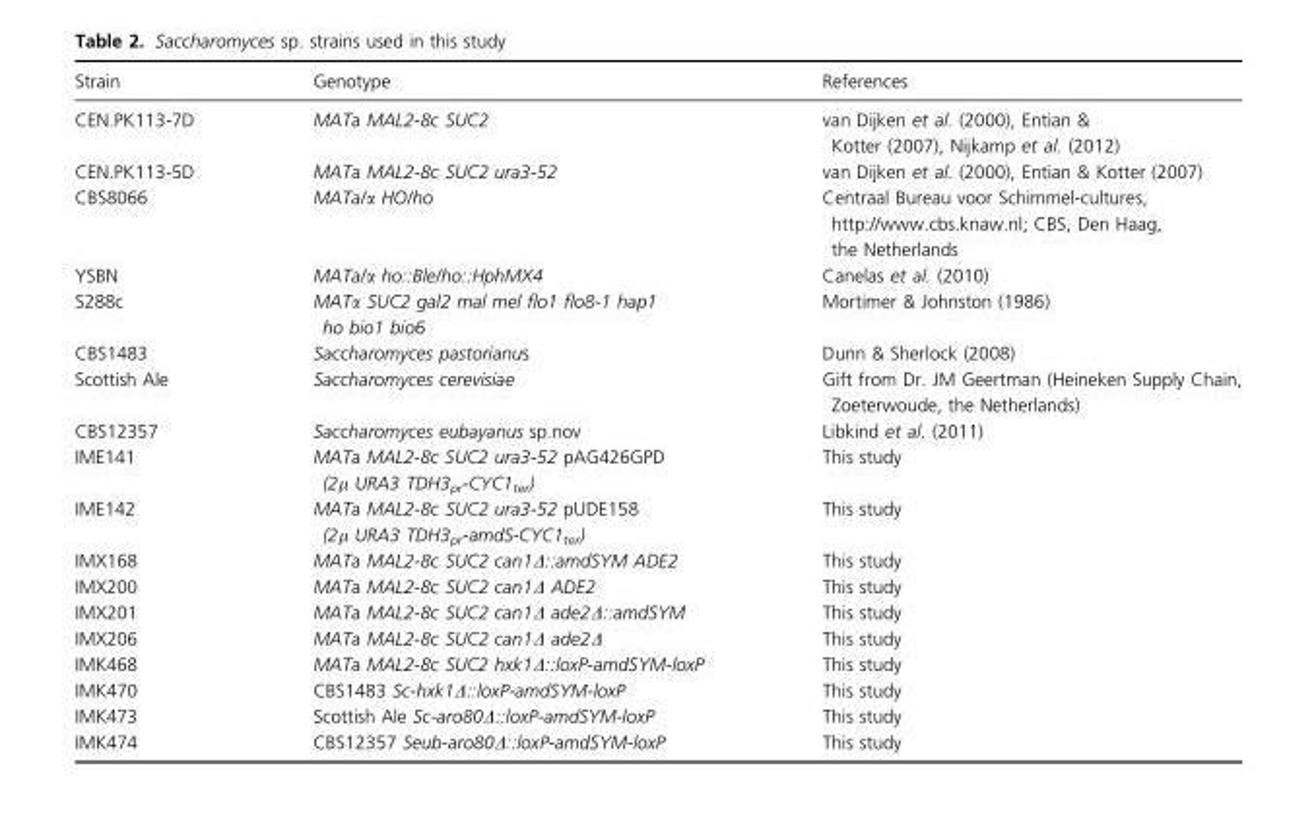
<table><thead><tr><td>Strain</td><td>Genotype</td><td>References</td></tr></thead><tbody><tr><td>CEN.PK113-7D</td><td>MATa MAL2-8c SUC2</td><td>van Dijken et al. (2000), Entian &amp; Kotter (2007), Nijkamp et al. (2012)</td></tr><tr><td>CEN.PK113-5D</td><td>MATa MAL2-8c SUC2 ura3-52</td><td>van Dijken et al. (2000), Entian &amp; Kotter (2007)</td></tr><tr><td>CBS8066</td><td>MATa/α HO/ho</td><td>Centraal Bureau voor Schimmel-cultures, http://www.cbs.knaw.nl; CBS, Den Haag, the Netherlands</td></tr><tr><td>YSBN</td><td>MATa/α ho::Ble/ho::HphMX4</td><td>Canelas et al. (2010)</td></tr><tr><td>S288c</td><td>MATα SUC2 gal2 mal mel flo1 flo8-1 hap1 ho bio1 bio6</td><td>Mortimer &amp; Johnston (1986)</td></tr><tr><td>CBS1483</td><td>Saccharomyces pastorianus</td><td>Dunn &amp; Sherlock (2008)</td></tr><tr><td>Scottish Ale</td><td>Saccharomyces cerevisiae</td><td>Gift from Dr. JM Geertman (Heineken Supply Chain, Zoeterwoude, the Netherlands)</td></tr><tr><td>CBS12357</td><td>Saccharomyces eubayanus sp.nov</td><td>Libkind et al. (2011)</td></tr><tr><td>IME141</td><td>MATa MAL2-8c SUC2 ura3-52 pAG426GPD (2μ URA3 TDH3<sub>pr</sub>-CYC1<sub>ter</sub>)</td><td>This study</td></tr><tr><td>IME142</td><td>MATa MAL2-8c SUC2 ura3-52 pUDE158 (2μ URA3 TDH3<sub>pr</sub>-amdS-CYC1<sub>ter</sub>)</td><td>This study</td></tr><tr><td>IMX168</td><td>MATa MAL2-8c SUC2 can1Δ::amdSYM ADE2</td><td>This study</td></tr><tr><td>IMX200</td><td>MATa MAL2-8c SUC2 can1Δ ADE2</td><td>This study</td></tr><tr><td>IMX201</td><td>MATa MAL2-8c SUC2 can1Δ ade2Δ::amdSYM</td><td>This study</td></tr><tr><td>IMX206</td><td>MATa MAL2-8c SUC2 can1Δ ade2Δ</td><td>This study</td></tr><tr><td>IMK468</td><td>MATa MAL2-8c SUC2 hxk1Δ::loxP-amdSYM-loxP</td><td>This study</td></tr><tr><td>IMK470</td><td>CBS1483 Sc-hxk1Δ::loxP-amdSYM-loxP</td><td>This study</td></tr><tr><td>IMK473</td><td>Scottish Ale Sc-aro80Δ::loxP-amdSYM-loxP</td><td>This study</td></tr><tr><td>IMK474</td><td>CBS12357 Seub-aro80Δ::loxP-amdSYM-loxP</td><td>This study</td></tr></tbody></table>